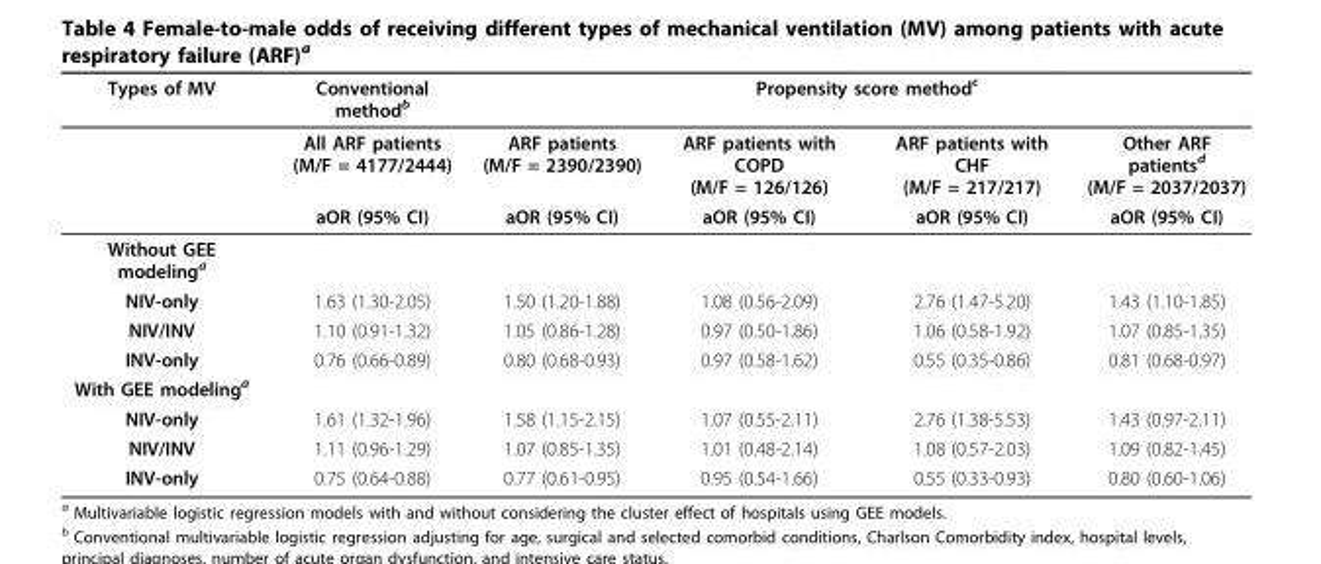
<table><thead><tr><td rowspan="2">Types of MV</td><td rowspan="2">Conventional method<sup>b</sup> All ARF patients (M/F = 4177/2444)</td><td colspan="4">Propensity score method<sup>c</sup></td></tr><tr><td>ARF patients (M/F = 2390/2390)</td><td>ARF patients with COPD (M/F = 126/126)</td><td>ARF patients with CHF (M/F = 217/217)</td><td>Other ARF patients<sup>d</sup> (M/F = 2037/2037)</td></tr></thead><tbody><tr><td></td><td>aOR (95% CI)</td><td>aOR (95% CI)</td><td>aOR (95% CI)</td><td>aOR (95% CI)</td><td>aOR (95% CI)</td></tr><tr><td colspan="6">Without GEE modeling<sup>a</sup></td></tr><tr><td>NIV-only</td><td>1.63 (1.30-2.05)</td><td>1.50 (1.20-1.88)</td><td>1.08 (0.56-2.09)</td><td>2.76 (1.47-5.20)</td><td>1.43 (1.10-1.85)</td></tr><tr><td>NIV/INV</td><td>1.10 (0.91-1.32)</td><td>1.05 (0.86-1.28)</td><td>0.97 (0.50-1.86)</td><td>1.06 (0.58-1.92)</td><td>1.07 (0.85-1.35)</td></tr><tr><td>INV-only</td><td>0.76 (0.66-0.89)</td><td>0.80 (0.68-0.93)</td><td>0.97 (0.58-1.62)</td><td>0.55 (0.35-0.86)</td><td>0.81 (0.68-0.97)</td></tr><tr><td colspan="6">With GEE modeling<sup>a</sup></td></tr><tr><td>NIV-only</td><td>1.61 (1.32-1.96)</td><td>1.58 (1.15-2.15)</td><td>1.07 (0.55-2.11)</td><td>2.76 (1.38-5.53)</td><td>1.43 (0.97-2.11)</td></tr><tr><td>NIV/INV</td><td>1.11 (0.96-1.29)</td><td>1.07 (0.85-1.35)</td><td>1.01 (0.48-2.14)</td><td>1.08 (0.57-2.03)</td><td>1.09 (0.82-1.45)</td></tr><tr><td>INV-only</td><td>0.75 (0.64-0.88)</td><td>0.77 (0.61-0.95)</td><td>0.95 (0.54-1.66)</td><td>0.55 (0.33-0.93)</td><td>0.80 (0.60-1.06)</td></tr></tbody></table>